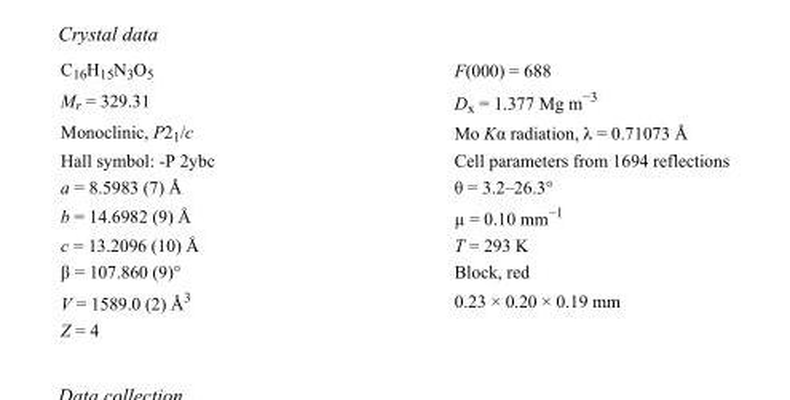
<table><tbody><tr><td>C<sub>16</sub>H<sub>15</sub>N<sub>3</sub>O<sub>5</sub></td><td>F(000) = 688</td></tr><tr><td>M<sub>r</sub> = 329.31</td><td>D<sub>x</sub> = 1.377 Mg m<sup>−3</sup></td></tr><tr><td>Monoclinic, P2<sub>1</sub>/c</td><td>Mo Kα radiation, λ = 0.71073 Å</td></tr><tr><td>Hall symbol: -P 2ybc</td><td>Cell parameters from 1694 reflections</td></tr><tr><td>a = 8.5983 (7) Å</td><td>θ = 3.2–26.3°</td></tr><tr><td>b = 14.6982 (9) Å</td><td>µ = 0.10 mm<sup>−1</sup></td></tr><tr><td>c = 13.2096 (10) Å</td><td>T = 293 K</td></tr><tr><td>β = 107.860 (9)°</td><td>Block, red</td></tr><tr><td>V = 1589.0 (2) Å<sup>3</sup></td><td>0.23 × 0.20 × 0.19 mm</td></tr><tr><td>Z = 4</td><td></td></tr></tbody></table>